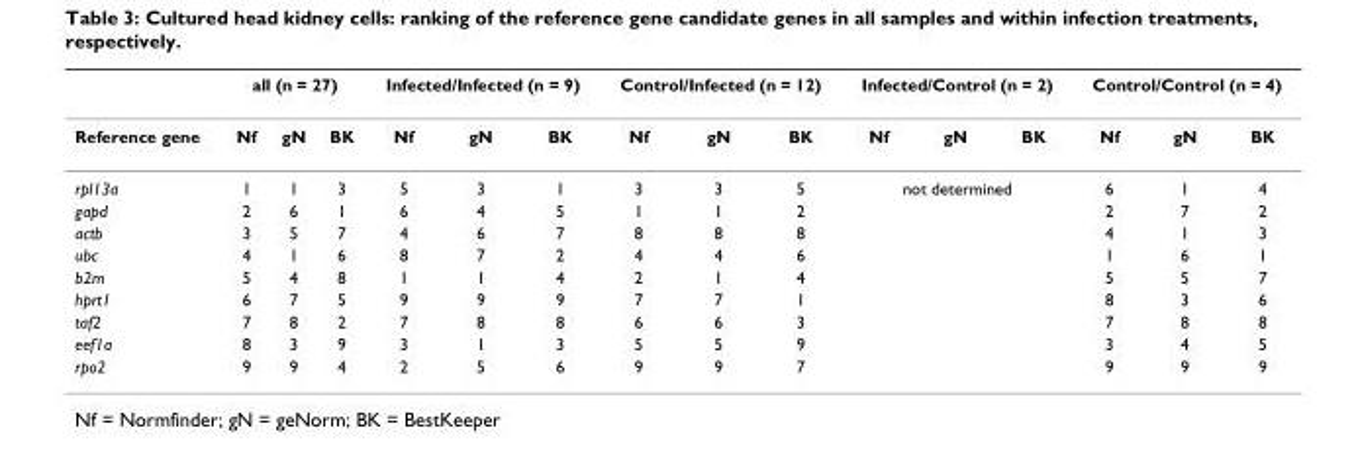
<table><thead><tr><td rowspan="2">Reference gene</td><td colspan="3">all (n = 27)</td><td colspan="3">Infected/Infected (n = 9)</td><td colspan="3">Control/Infected (n = 12)</td><td colspan="3">Infected/Control (n = 2)</td><td colspan="3">Control/Control (n = 4)</td></tr><tr><td>Nf</td><td>gN</td><td>BK</td><td>Nf</td><td>gN</td><td>BK</td><td>Nf</td><td>gN</td><td>BK</td><td>Nf</td><td>gN</td><td>BK</td><td>Nf</td><td>gN</td><td>BK</td></tr></thead><tbody><tr><td>rpl13a</td><td>1</td><td>1</td><td>3</td><td>5</td><td>3</td><td>1</td><td>3</td><td>3</td><td>5</td><td colspan="3">not determined</td><td>6</td><td>1</td><td>4</td></tr><tr><td>gapd</td><td>2</td><td>6</td><td>1</td><td>6</td><td>4</td><td>5</td><td>1</td><td>1</td><td>2</td><td></td><td></td><td></td><td>2</td><td>7</td><td>2</td></tr><tr><td>actb</td><td>3</td><td>5</td><td>7</td><td>4</td><td>6</td><td>7</td><td>8</td><td>8</td><td>8</td><td></td><td></td><td></td><td>4</td><td>1</td><td>3</td></tr><tr><td>ubc</td><td>4</td><td>1</td><td>6</td><td>8</td><td>7</td><td>2</td><td>4</td><td>4</td><td>6</td><td></td><td></td><td></td><td>1</td><td>6</td><td>1</td></tr><tr><td>b2m</td><td>5</td><td>4</td><td>8</td><td>1</td><td>1</td><td>4</td><td>2</td><td>1</td><td>4</td><td></td><td></td><td></td><td>5</td><td>5</td><td>7</td></tr><tr><td>hprt1</td><td>6</td><td>7</td><td>5</td><td>9</td><td>9</td><td>9</td><td>7</td><td>7</td><td>1</td><td></td><td></td><td></td><td>8</td><td>3</td><td>6</td></tr><tr><td>taf2</td><td>7</td><td>8</td><td>2</td><td>7</td><td>8</td><td>8</td><td>6</td><td>6</td><td>3</td><td></td><td></td><td></td><td>7</td><td>8</td><td>8</td></tr><tr><td>eef1a</td><td>8</td><td>3</td><td>9</td><td>3</td><td>1</td><td>3</td><td>5</td><td>5</td><td>9</td><td></td><td></td><td></td><td>3</td><td>4</td><td>5</td></tr><tr><td>rpo2</td><td>9</td><td>9</td><td>4</td><td>2</td><td>5</td><td>6</td><td>9</td><td>9</td><td>7</td><td></td><td></td><td></td><td>9</td><td>9</td><td>9</td></tr></tbody></table>